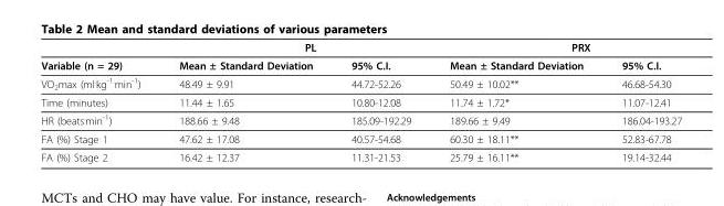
<table><thead><tr><td rowspan="2">Variable (n = 29)</td><td colspan="2">PL</td><td colspan="2">PRX</td></tr><tr><td>Mean ± Standard Deviation</td><td>95% C.I.</td><td>Mean ± Standard Deviation</td><td>95% C.I.</td></tr></thead><tbody><tr><td>VO<sub>2</sub>max (ml<sup>.</sup>kg<sup>-1.</sup>min<sup>-1</sup>)</td><td>48.49 ± 9.91</td><td>44.72-52.26</td><td>50.49 ± 10.02**</td><td>46.68-54.30</td></tr><tr><td>Time (minutes)</td><td>11.44 ± 1.65</td><td>10.80-12.08</td><td>11.74 ± 1.72*</td><td>11.07-12.41</td></tr><tr><td>HR (beats<sup>.</sup>min<sup>-1</sup>)</td><td>188.66 ± 9.48</td><td>185.09-192.29</td><td>189.66 ± 9.49</td><td>186.04-193.27</td></tr><tr><td>FA (%) Stage 1</td><td>47.62 ± 17.08</td><td>40.57-54.68</td><td>60.30 ± 18.11**</td><td>52.83-67.78</td></tr><tr><td>FA (%) Stage 2</td><td>16.42 ± 12.37</td><td>11.31-21.53</td><td>25.79 ± 16.11**</td><td>19.14-32.44</td></tr></tbody></table>